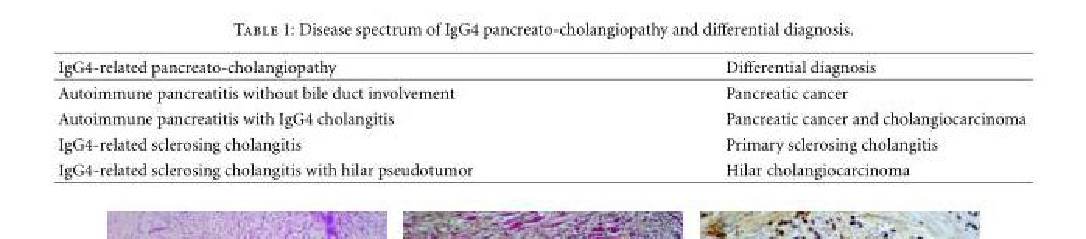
<table><thead><tr><td>IgG4-related pancreato-cholangiopathy</td><td>Differential diagnosis</td></tr></thead><tbody><tr><td>Autoimmune pancreatitis without bile duct involvement</td><td>Pancreatic cancer</td></tr><tr><td>Autoimmune pancreatitis with IgG4 cholangitis</td><td>Pancreatic cancer and cholangiocarcinoma</td></tr><tr><td>IgG4-related sclerosing cholangitis</td><td>Primary sclerosing cholangitis</td></tr><tr><td>IgG4-related sclerosing cholangitis with hilar pseudotumor</td><td>Hilar cholangiocarcinoma</td></tr></tbody></table>